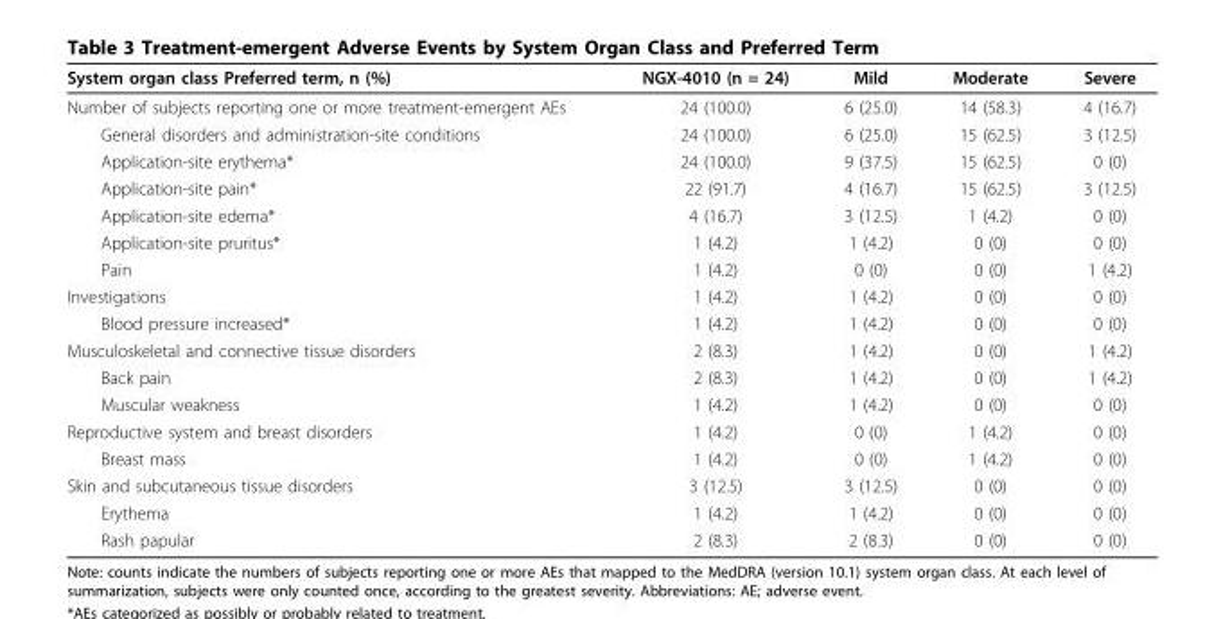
<table><thead><tr><td>System organ class Preferred term, n (%)</td><td>NGX-4010 (n = 24)</td><td>Mild</td><td>Moderate</td><td>Severe</td></tr></thead><tbody><tr><td>Number of subjects reporting one or more treatment-emergent AEs</td><td>24 (100.0)</td><td>6 (25.0)</td><td>14 (58.3)</td><td>4 (16.7)</td></tr><tr><td>General disorders and administration-site conditions</td><td>24 (100.0)</td><td>6 (25.0)</td><td>15 (62.5)</td><td>3 (12.5)</td></tr><tr><td>Application-site erythema*</td><td>24 (100.0)</td><td>9 (37.5)</td><td>15 (62.5)</td><td>0 (0)</td></tr><tr><td>Application-site pain*</td><td>22 (91.7)</td><td>4 (16.7)</td><td>15 (62.5)</td><td>3 (12.5)</td></tr><tr><td>Application-site edema*</td><td>4 (16.7)</td><td>3 (12.5)</td><td>1 (4.2)</td><td>0 (0)</td></tr><tr><td>Application-site pruritus*</td><td>1 (4.2)</td><td>1 (4.2)</td><td>0 (0)</td><td>0 (0)</td></tr><tr><td>Pain</td><td>1 (4.2)</td><td>0 (0)</td><td>0 (0)</td><td>1 (4.2)</td></tr><tr><td>Investigations</td><td>1 (4.2)</td><td>1 (4.2)</td><td>0 (0)</td><td>0 (0)</td></tr><tr><td>Blood pressure increased*</td><td>1 (4.2)</td><td>1 (4.2)</td><td>0 (0)</td><td>0 (0)</td></tr><tr><td>Musculoskeletal and connective tissue disorders</td><td>2 (8.3)</td><td>1 (4.2)</td><td>0 (0)</td><td>1 (4.2)</td></tr><tr><td>Back pain</td><td>2 (8.3)</td><td>1 (4.2)</td><td>0 (0)</td><td>1 (4.2)</td></tr><tr><td>Muscular weakness</td><td>1 (4.2)</td><td>1 (4.2)</td><td>0 (0)</td><td>0 (0)</td></tr><tr><td>Reproductive system and breast disorders</td><td>1 (4.2)</td><td>0 (0)</td><td>1 (4.2)</td><td>0 (0)</td></tr><tr><td>Breast mass</td><td>1 (4.2)</td><td>0 (0)</td><td>1 (4.2)</td><td>0 (0)</td></tr><tr><td>Skin and subcutaneous tissue disorders</td><td>3 (12.5)</td><td>3 (12.5)</td><td>0 (0)</td><td>0 (0)</td></tr><tr><td>Erythema</td><td>1 (4.2)</td><td>1 (4.2)</td><td>0 (0)</td><td>0 (0)</td></tr><tr><td>Rash papular</td><td>2 (8.3)</td><td>2 (8.3)</td><td>0 (0)</td><td>0 (0)</td></tr></tbody></table>